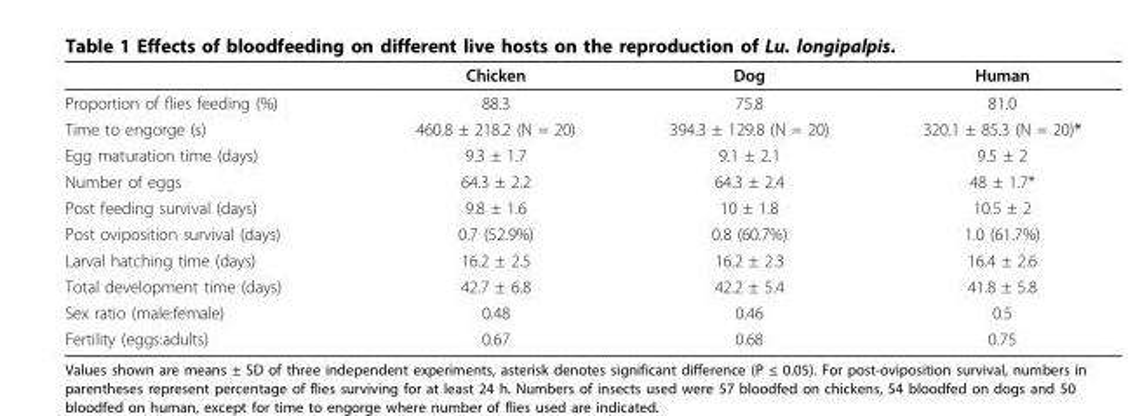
<table><thead><tr><td></td><td>Chicken</td><td>Dog</td><td>Human</td></tr></thead><tbody><tr><td>Proportion of flies feeding (%)</td><td>88.3</td><td>75.8</td><td>81.0</td></tr><tr><td>Time to engorge (s)</td><td>460.8 ± 218.2 (N = 20)</td><td>394.3 ± 129.8 (N = 20)</td><td>320.1 ± 85.3 (N = 20)*</td></tr><tr><td>Egg maturation time (days)</td><td>9.3 ± 1.7</td><td>9.1 ± 2.1</td><td>9.5 ± 2</td></tr><tr><td>Number of eggs</td><td>64.3 ± 2.2</td><td>64.3 ± 2.4</td><td>48 ± 1.7*</td></tr><tr><td>Post feeding survival (days)</td><td>9.8 ± 1.6</td><td>10 ± 1.8</td><td>10.5 ± 2</td></tr><tr><td>Post oviposition survival (days)</td><td>0.7 (52.9%)</td><td>0.8 (60.7%)</td><td>1.0 (61.7%)</td></tr><tr><td>Larval hatching time (days)</td><td>16.2 ± 2.5</td><td>16.2 ± 2.3</td><td>16.4 ± 2.6</td></tr><tr><td>Total development time (days)</td><td>42.7 ± 6.8</td><td>42.2 ± 5.4</td><td>41.8 ± 5.8</td></tr><tr><td>Sex ratio (male:female)</td><td>0.48</td><td>0.46</td><td>0.5</td></tr><tr><td>Fertility (eggs:adults)</td><td>0.67</td><td>0.68</td><td>0.75</td></tr></tbody></table>